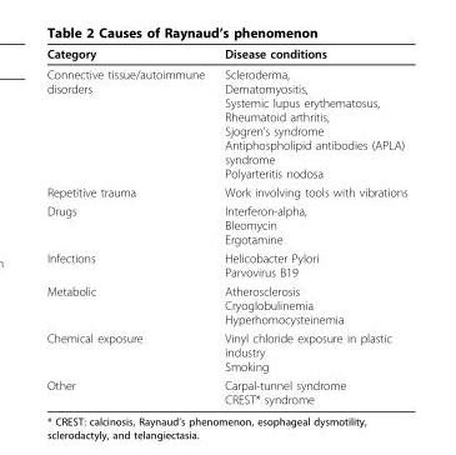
<table><thead><tr><td>Category</td><td>Disease conditions</td></tr></thead><tbody><tr><td>Connective tissue/autoimmune disorders</td><td>Scleroderma, Dematomyositis, Systemic lupus erythematosus, Rheumatoid arthritis, Sjogren’s syndrome Antiphospholipid antibodies (APLA) syndrome Polyarteritis nodosa</td></tr><tr><td>Repetitive trauma</td><td>Work involving tools with vibrations</td></tr><tr><td>Drugs</td><td>Interferon-alpha, Bleomycin Ergotamine</td></tr><tr><td>Infections</td><td>Helicobacter Pylori Parvovirus B19</td></tr><tr><td>Metabolic</td><td>Atherosclerosis Cryoglobulinemia Hyperhomocysteinemia</td></tr><tr><td>Chemical exposure</td><td>Vinyl chloride exposure in plastic industry Smoking</td></tr><tr><td>Other</td><td>Carpal-tunnel syndrome CREST* syndrome</td></tr></tbody></table>